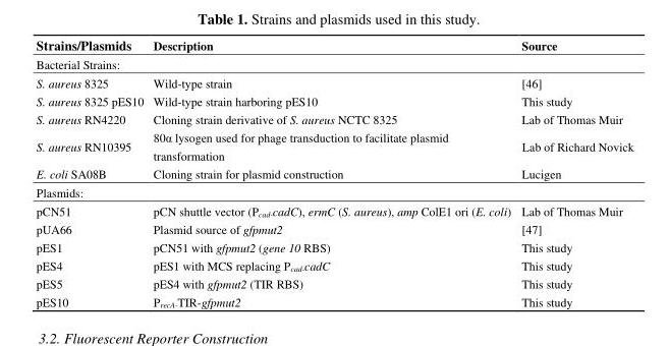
<table><thead><tr><td>Strains/Plasmids</td><td>Description</td><td>Source</td></tr></thead><tbody><tr><td colspan="3">Bacterial Strains:</td></tr><tr><td>S. aureus 8325</td><td>Wild-type strain</td><td>[46]</td></tr><tr><td>S. aureus 8325 pES10</td><td>Wild-type strain harboring pES10</td><td>This study</td></tr><tr><td>S. aureus RN4220</td><td>Cloning strain derivative of S. aureus NCTC 8325</td><td>Lab of Thomas Muir</td></tr><tr><td>S. aureus RN10395</td><td>80α lysogen used for phage transduction to facilitate plasmid transformation</td><td>Lab of Richard Novick</td></tr><tr><td>E. coli SA08B</td><td>Cloning strain for plasmid construction</td><td>Lucigen</td></tr><tr><td colspan="3">Plasmids:</td></tr><tr><td>pCN51</td><td>pCN shuttle vector (P<sub>cad</sub>-cadC), ermC (S. aureus), amp ColE1 ori (E. coli)</td><td>Lab of Thomas Muir</td></tr><tr><td>pUA66</td><td>Plasmid source of gfpmut2</td><td>[47]</td></tr><tr><td>pES1</td><td>pCN51 with gfpmut2 (gene 10 RBS)</td><td>This study</td></tr><tr><td>pES4</td><td>pES1 with MCS replacing P<sub>cad</sub>-cadC</td><td>This study</td></tr><tr><td>pES5</td><td>pES4 with gfpmut2 (TIR RBS)</td><td>This study</td></tr><tr><td>pES10</td><td>P<sub>recA</sub>-TIR-gfpmut2</td><td>This study</td></tr></tbody></table>